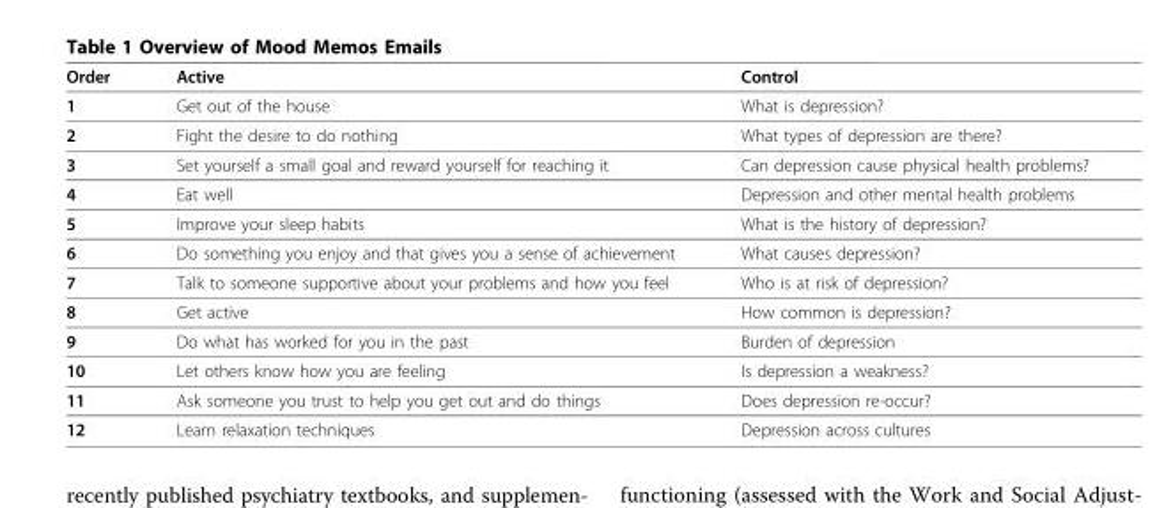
<table><thead><tr><td>Order</td><td>Active</td><td>Control</td></tr></thead><tbody><tr><td>1</td><td>Get out of the house</td><td>What is depression?</td></tr><tr><td>2</td><td>Fight the desire to do nothing</td><td>What types of depression are there?</td></tr><tr><td>3</td><td>Set yourself a small goal and reward yourself for reaching it</td><td>Can depression cause physical health problems?</td></tr><tr><td>4</td><td>Eat well</td><td>Depression and other mental health problems</td></tr><tr><td>5</td><td>Improve your sleep habits</td><td>What is the history of depression?</td></tr><tr><td>6</td><td>Do something you enjoy and that gives you a sense of achievement</td><td>What causes depression?</td></tr><tr><td>7</td><td>Talk to someone supportive about your problems and how you feel</td><td>Who is at risk of depression?</td></tr><tr><td>8</td><td>Get active</td><td>How common is depression?</td></tr><tr><td>9</td><td>Do what has worked for you in the past</td><td>Burden of depression</td></tr><tr><td>10</td><td>Let others know how you are feeling</td><td>Is depression a weakness?</td></tr><tr><td>11</td><td>Ask someone you trust to help you get out and do things</td><td>Does depression re-occur?</td></tr><tr><td>12</td><td>Learn relaxation techniques</td><td>Depression across cultures</td></tr></tbody></table>